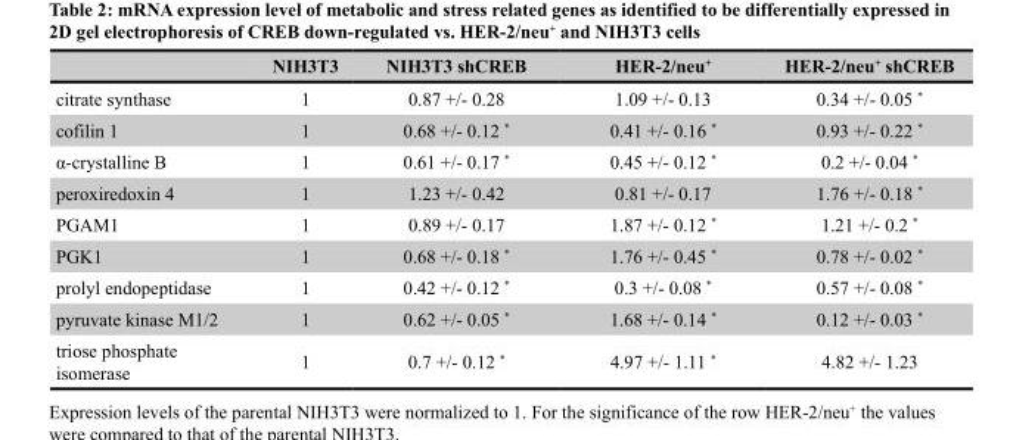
<table><thead><tr><td></td><td>NIH3T3</td><td>NIH3T3 shCREB</td><td>HER-2/neu<sup>+</sup></td><td>HER-2/neu<sup>+</sup> shCREB</td></tr></thead><tbody><tr><td>citrate synthase</td><td>1</td><td>0.87 +/- 0.28</td><td>1.09 +/- 0.13</td><td>0.34 +/- 0.05 *</td></tr><tr><td>cofilin 1</td><td>1</td><td>0.68 +/- 0.12 *</td><td>0.41 +/- 0.16 *</td><td>0.93 +/- 0.22 *</td></tr><tr><td>α-crystalline B</td><td>1</td><td>0.61 +/- 0.17 *</td><td>0.45 +/- 0.12 *</td><td>0.2 +/- 0.04 *</td></tr><tr><td>peroxiredoxin 4</td><td>1</td><td>1.23 +/- 0.42</td><td>0.81 +/- 0.17</td><td>1.76 +/- 0.18 *</td></tr><tr><td>PGAM1</td><td>1</td><td>0.89 +/- 0.17</td><td>1.87 +/- 0.12 *</td><td>1.21 +/- 0.2 *</td></tr><tr><td>PGK1</td><td>1</td><td>0.68 +/- 0.18 *</td><td>1.76 +/- 0.45 *</td><td>0.78 +/- 0.02 *</td></tr><tr><td>prolyl endopeptidase</td><td>1</td><td>0.42 +/- 0.12 *</td><td>0.3 +/- 0.08 *</td><td>0.57 +/- 0.08 *</td></tr><tr><td>pyruvate kinase M1/2</td><td>1</td><td>0.62 +/- 0.05 *</td><td>1.68 +/- 0.14 *</td><td>0.12 +/- 0.03 *</td></tr><tr><td>triose phosphate isomerase</td><td>1</td><td>0.7 +/- 0.12 *</td><td>4.97 +/- 1.11 *</td><td>4.82 +/- 1.23</td></tr></tbody></table>